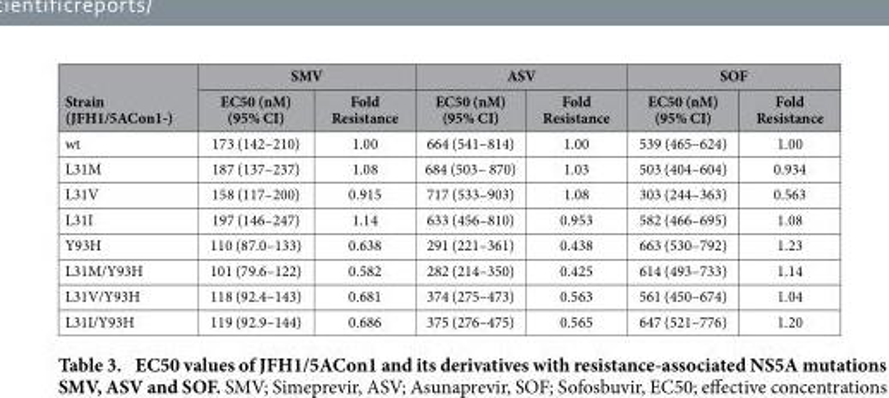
<table><thead><tr><td rowspan="2">Strain (JFH1/5ACon1-)</td><td colspan="2">SMV</td><td colspan="2">ASV</td><td colspan="2">SOF</td></tr><tr><td>EC50 (nM) (95% CI)</td><td>Fold Resistance</td><td>EC50 (nM) (95% CI)</td><td>Fold Resistance</td><td>EC50 (nM) (95% CI)</td><td>Fold Resistance</td></tr></thead><tbody><tr><td>wt</td><td>173 (142–210)</td><td>1.00</td><td>664 (541–814)</td><td>1.00</td><td>539 (465–624)</td><td>1.00</td></tr><tr><td>L31M</td><td>187 (137–237)</td><td>1.08</td><td>684 (503– 870)</td><td>1.03</td><td>503 (404–604)</td><td>0.934</td></tr><tr><td>L31V</td><td>158 (117–200)</td><td>0.915</td><td>717 (533–903)</td><td>1.08</td><td>303 (244–363)</td><td>0.563</td></tr><tr><td>L31I</td><td>197 (146–247)</td><td>1.14</td><td>633 (456–810)</td><td>0.953</td><td>582 (466–695)</td><td>1.08</td></tr><tr><td>Y93H</td><td>110 (87.0–133)</td><td>0.638</td><td>291 (221–361)</td><td>0.438</td><td>663 (530–792)</td><td>1.23</td></tr><tr><td>L31M/Y93H</td><td>101 (79.6–122)</td><td>0.582</td><td>282 (214–350)</td><td>0.425</td><td>614 (493–733)</td><td>1.14</td></tr><tr><td>L31V/Y93H</td><td>118 (92.4–143)</td><td>0.681</td><td>374 (275–473)</td><td>0.563</td><td>561 (450–674)</td><td>1.04</td></tr><tr><td>L31I/Y93H</td><td>119 (92.9–144)</td><td>0.686</td><td>375 (276–475)</td><td>0.565</td><td>647 (521–776)</td><td>1.20</td></tr></tbody></table>